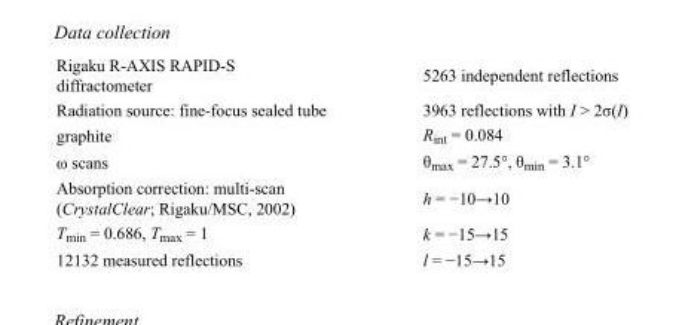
<table><tbody><tr><td>Rigaku R-AXIS RAPID-S diffractometer</td><td>5263 independent reflections</td></tr><tr><td>Radiation source: fine-focus sealed tube</td><td>3963 reflections with I &gt; 2σ(I)</td></tr><tr><td>graphite</td><td>R<sub>int</sub> = 0.084</td></tr><tr><td>ω scans</td><td>θ<sub>max</sub> = 27.5°, θ<sub>min</sub> = 3.1°</td></tr><tr><td>Absorption correction: multi-scan (CrystalClear; Rigaku/MSC, 2002)</td><td>h = −10→10</td></tr><tr><td>T<sub>min</sub> = 0.686, T<sub>max</sub> = 1</td><td>k = −15→15</td></tr><tr><td>12132 measured reflections</td><td>l = −15→15</td></tr></tbody></table>